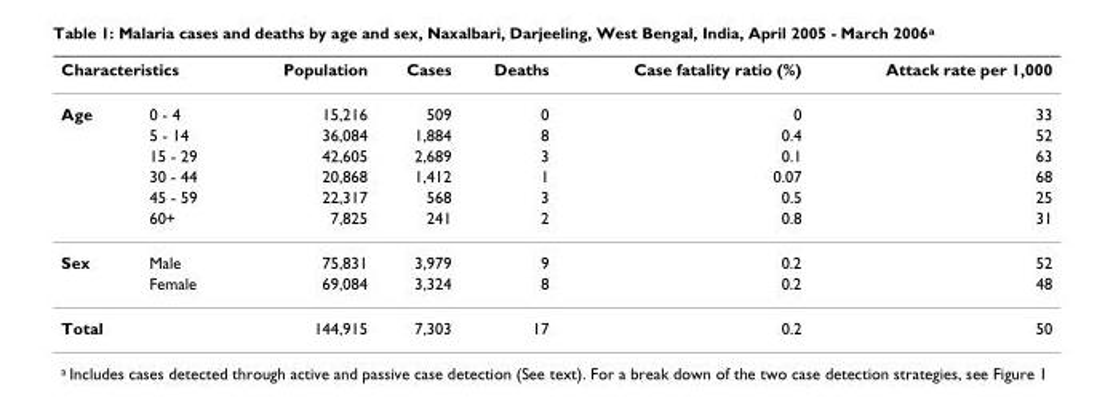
<table><thead><tr><td colspan="2">Characteristics</td><td rowspan="2">Population 15,216</td><td rowspan="2">Cases 509</td><td rowspan="2">Deaths 0</td><td rowspan="2">Case fatality ratio (%) 0</td><td rowspan="2">Attack rate per 1,000 33</td></tr><tr><td>Age</td><td>0 - 4</td></tr></thead><tbody><tr><td></td><td>5 - 14</td><td>36,084</td><td>1,884</td><td>8</td><td>0.4</td><td>52</td></tr><tr><td></td><td>15 - 29</td><td>42,605</td><td>2,689</td><td>3</td><td>0.1</td><td>63</td></tr><tr><td></td><td>30 - 44</td><td>20,868</td><td>1,412</td><td>1</td><td>0.07</td><td>68</td></tr><tr><td></td><td>45 - 59</td><td>22,317</td><td>568</td><td>3</td><td>0.5</td><td>25</td></tr><tr><td></td><td>60+</td><td>7,825</td><td>241</td><td>2</td><td>0.8</td><td>31</td></tr><tr><td rowspan="2">Sex</td><td>Male</td><td>75,831</td><td>3,979</td><td>9</td><td>0.2</td><td>52</td></tr><tr><td>Female</td><td>69,084</td><td>3,324</td><td>8</td><td>0.2</td><td>48</td></tr><tr><td>Total</td><td></td><td>144,915</td><td>7,303</td><td>17</td><td>0.2</td><td>50</td></tr></tbody></table>